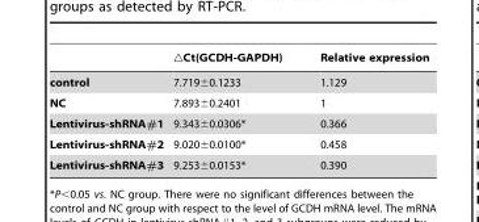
<table><thead><tr><td></td><td>△Ct(GCDH-GAPDH)</td><td>Relative expression</td></tr></thead><tbody><tr><td>control</td><td>7.719±0.1233</td><td>1.129</td></tr><tr><td>NC</td><td>7.893±0.2401</td><td>1</td></tr><tr><td>Lentivirus-shRNA#1</td><td>9.343±0.0306*</td><td>0.366</td></tr><tr><td>Lentivirus-shRNA#2</td><td>9.020±0.0100*</td><td>0.458</td></tr><tr><td>Lentivirus-shRNA#3</td><td>9.253±0.0153*</td><td>0.390</td></tr></tbody></table>